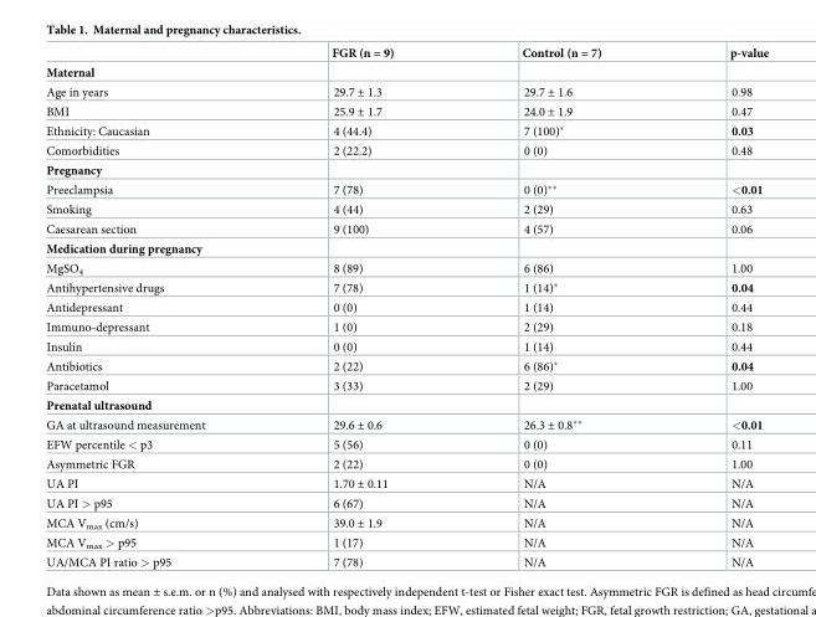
<table><thead><tr><td></td><td>FGR (n = 9)</td><td>Control (n = 7)</td><td>p-value</td></tr></thead><tbody><tr><td colspan="4">Maternal</td></tr><tr><td>Age in years</td><td>29.7 ± 1.3</td><td>29.7 ± 1.6</td><td>0.98</td></tr><tr><td>BMI</td><td>25.9 ± 1.7</td><td>24.0 ± 1.9</td><td>0.47</td></tr><tr><td>Ethnicity: Caucasian</td><td>4 (44.4)</td><td>7 (100)*</td><td>0.03</td></tr><tr><td>Comorbidities</td><td>2 (22.2)</td><td>0 (0)</td><td>0.48</td></tr><tr><td colspan="4">Pregnancy</td></tr><tr><td>Preeclampsia</td><td>7 (78)</td><td>0 (0)**</td><td>&lt;0.01</td></tr><tr><td>Smoking</td><td>4 (44)</td><td>2 (29)</td><td>0.63</td></tr><tr><td>Caesarean section</td><td>9 (100)</td><td>4 (57)</td><td>0.06</td></tr><tr><td colspan="4">Medication during pregnancy</td></tr><tr><td>MgSO<sub>4</sub></td><td>8 (89)</td><td>6 (86)</td><td>1.00</td></tr><tr><td>Antihypertensive drugs</td><td>7 (78)</td><td>1 (14)*</td><td>0.04</td></tr><tr><td>Antidepressant</td><td>0 (0)</td><td>1 (14)</td><td>0.44</td></tr><tr><td>Immuno-depressant</td><td>1 (0)</td><td>2 (29)</td><td>0.18</td></tr><tr><td>Insulin</td><td>0 (0)</td><td>1 (14)</td><td>0.44</td></tr><tr><td>Antibiotics</td><td>2 (22)</td><td>6 (86)*</td><td>0.04</td></tr><tr><td>Paracetamol</td><td>3 (33)</td><td>2 (29)</td><td>1.00</td></tr><tr><td colspan="4">Prenatal ultrasound</td></tr><tr><td>GA at ultrasound measurement</td><td>29.6 ± 0.6</td><td>26.3 ± 0.8**</td><td>&lt;0.01</td></tr><tr><td>EFW percentile &lt; p3</td><td>5 (56)</td><td>0 (0)</td><td>0.11</td></tr><tr><td>Asymmetric FGR</td><td>2 (22)</td><td>0 (0)</td><td>1.00</td></tr><tr><td>UA PI</td><td>1.70 ± 0.11</td><td>N/A</td><td>N/A</td></tr><tr><td>UA PI &gt; p95</td><td>6 (67)</td><td>N/A</td><td>N/A</td></tr><tr><td>MCA V<sub>max</sub> (cm/s)</td><td>39.0 ± 1.9</td><td>N/A</td><td>N/A</td></tr><tr><td>MCA V<sub>max</sub> &gt; p95</td><td>1 (17)</td><td>N/A</td><td>N/A</td></tr><tr><td>UA/MCA PI ratio &gt; p95</td><td>7 (78)</td><td>N/A</td><td>N/A</td></tr></tbody></table>